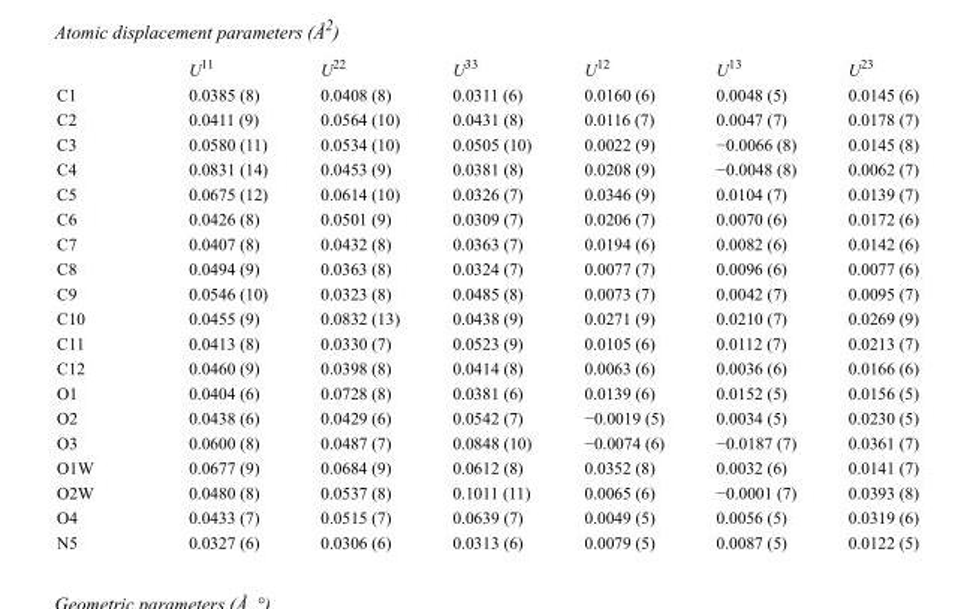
<table><thead><tr><td></td><td>U<sup>11</sup></td><td>U<sup>22</sup></td><td>U<sup>33</sup></td><td>U<sup>12</sup></td><td>U<sup>13</sup></td><td>U<sup>23</sup></td></tr></thead><tbody><tr><td>C1</td><td>0.0385 (8)</td><td>0.0408 (8)</td><td>0.0311 (6)</td><td>0.0160 (6)</td><td>0.0048 (5)</td><td>0.0145 (6)</td></tr><tr><td>C2</td><td>0.0411 (9)</td><td>0.0564 (10)</td><td>0.0431 (8)</td><td>0.0116 (7)</td><td>0.0047 (7)</td><td>0.0178 (7)</td></tr><tr><td>C3</td><td>0.0580 (11)</td><td>0.0534 (10)</td><td>0.0505 (10)</td><td>0.0022 (9)</td><td>−0.0066 (8)</td><td>0.0145 (8)</td></tr><tr><td>C4</td><td>0.0831 (14)</td><td>0.0453 (9)</td><td>0.0381 (8)</td><td>0.0208 (9)</td><td>−0.0048 (8)</td><td>0.0062 (7)</td></tr><tr><td>C5</td><td>0.0675 (12)</td><td>0.0614 (10)</td><td>0.0326 (7)</td><td>0.0346 (9)</td><td>0.0104 (7)</td><td>0.0139 (7)</td></tr><tr><td>C6</td><td>0.0426 (8)</td><td>0.0501 (9)</td><td>0.0309 (7)</td><td>0.0206 (7)</td><td>0.0070 (6)</td><td>0.0172 (6)</td></tr><tr><td>C7</td><td>0.0407 (8)</td><td>0.0432 (8)</td><td>0.0363 (7)</td><td>0.0194 (6)</td><td>0.0082 (6)</td><td>0.0142 (6)</td></tr><tr><td>C8</td><td>0.0494 (9)</td><td>0.0363 (8)</td><td>0.0324 (7)</td><td>0.0077 (7)</td><td>0.0096 (6)</td><td>0.0077 (6)</td></tr><tr><td>C9</td><td>0.0546 (10)</td><td>0.0323 (8)</td><td>0.0485 (8)</td><td>0.0073 (7)</td><td>0.0042 (7)</td><td>0.0095 (7)</td></tr><tr><td>C10</td><td>0.0455 (9)</td><td>0.0832 (13)</td><td>0.0438 (9)</td><td>0.0271 (9)</td><td>0.0210 (7)</td><td>0.0269 (9)</td></tr><tr><td>C11</td><td>0.0413 (8)</td><td>0.0330 (7)</td><td>0.0523 (9)</td><td>0.0105 (6)</td><td>0.0112 (7)</td><td>0.0213 (7)</td></tr><tr><td>C12</td><td>0.0460 (9)</td><td>0.0398 (8)</td><td>0.0414 (8)</td><td>0.0063 (6)</td><td>0.0036 (6)</td><td>0.0166 (6)</td></tr><tr><td>O1</td><td>0.0404 (6)</td><td>0.0728 (8)</td><td>0.0381 (6)</td><td>0.0139 (6)</td><td>0.0152 (5)</td><td>0.0156 (5)</td></tr><tr><td>O2</td><td>0.0438 (6)</td><td>0.0429 (6)</td><td>0.0542 (7)</td><td>−0.0019 (5)</td><td>0.0034 (5)</td><td>0.0230 (5)</td></tr><tr><td>O3</td><td>0.0600 (8)</td><td>0.0487 (7)</td><td>0.0848 (10)</td><td>−0.0074 (6)</td><td>−0.0187 (7)</td><td>0.0361 (7)</td></tr><tr><td>O1W</td><td>0.0677 (9)</td><td>0.0684 (9)</td><td>0.0612 (8)</td><td>0.0352 (8)</td><td>0.0032 (6)</td><td>0.0141 (7)</td></tr><tr><td>O2W</td><td>0.0480 (8)</td><td>0.0537 (8)</td><td>0.1011 (11)</td><td>0.0065 (6)</td><td>−0.0001 (7)</td><td>0.0393 (8)</td></tr><tr><td>O4</td><td>0.0433 (7)</td><td>0.0515 (7)</td><td>0.0639 (7)</td><td>0.0049 (5)</td><td>0.0056 (5)</td><td>0.0319 (6)</td></tr><tr><td>N5</td><td>0.0327 (6)</td><td>0.0306 (6)</td><td>0.0313 (6)</td><td>0.0079 (5)</td><td>0.0087 (5)</td><td>0.0122 (5)</td></tr></tbody></table>